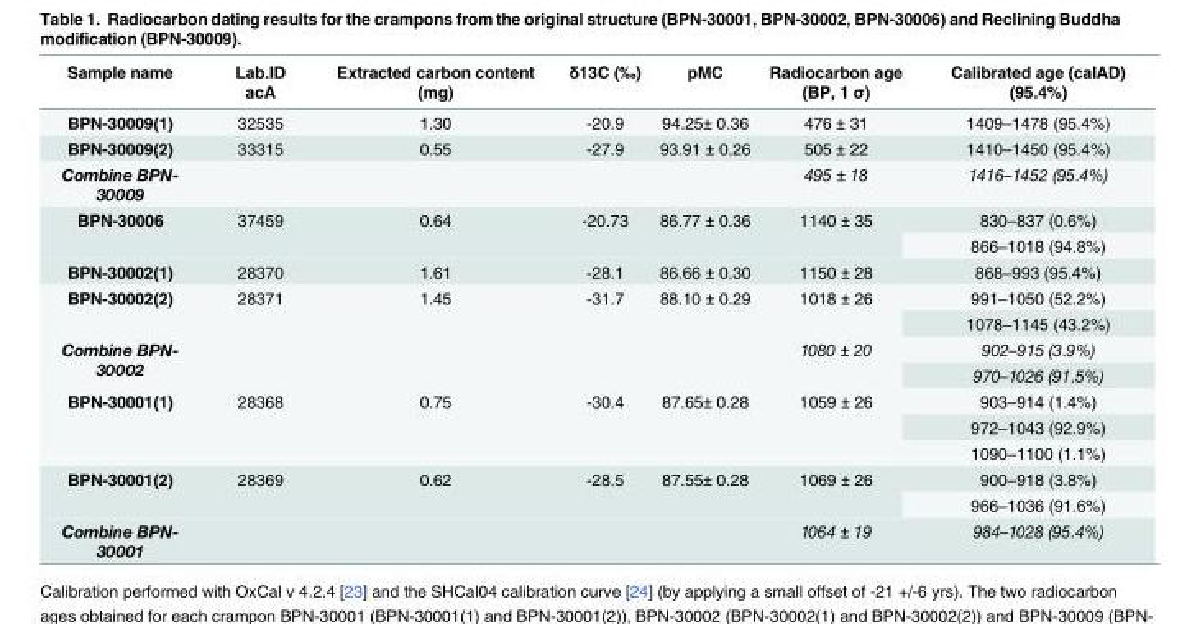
<table><thead><tr><td>Sample name</td><td>Lab.ID acA</td><td>Extracted carbon content (mg)</td><td>δ13C (‰)</td><td>pMC</td><td>Radiocarbon age (BP, 1 σ)</td><td>Calibrated age (calAD) (95.4%)</td></tr></thead><tbody><tr><td>BPN-30009(1)</td><td>32535</td><td>1.30</td><td>-20.9</td><td>94.25± 0.36</td><td>476 ± 31</td><td>1409–1478 (95.4%)</td></tr><tr><td>BPN-30009(2)</td><td>33315</td><td>0.55</td><td>-27.9</td><td>93.91 ± 0.26</td><td>505 ± 22</td><td>1410–1450 (95.4%)</td></tr><tr><td>Combine BPN- 30009</td><td></td><td></td><td></td><td></td><td>495 ± 18</td><td>1416–1452 (95.4%)</td></tr><tr><td rowspan="2">BPN-30006</td><td rowspan="2">37459</td><td rowspan="2">0.64</td><td rowspan="2">-20.73</td><td rowspan="2">86.77 ± 0.36</td><td rowspan="2">1140 ± 35</td><td>830–837 (0.6%)</td></tr><tr><td>866–1018 (94.8%)</td></tr><tr><td>BPN-30002(1)</td><td>28370</td><td>1.61</td><td>-28.1</td><td>86.66 ± 0.30</td><td>1150 ± 28</td><td>868–993 (95.4%)</td></tr><tr><td rowspan="2">BPN-30002(2)</td><td rowspan="2">28371</td><td rowspan="2">1.45</td><td rowspan="2">-31.7</td><td rowspan="2">88.10 ± 0.29</td><td rowspan="2">1018 ± 26</td><td>991–1050 (52.2%)</td></tr><tr><td>1078–1145 (43.2%)</td></tr><tr><td rowspan="2">Combine BPN- 30002</td><td rowspan="2"></td><td rowspan="2"></td><td rowspan="2"></td><td rowspan="2"></td><td rowspan="2">1080 ± 20</td><td>902–915 (3.9%)</td></tr><tr><td>970–1026 (91.5%)</td></tr><tr><td rowspan="3">BPN-30001(1)</td><td rowspan="3">28368</td><td rowspan="3">0.75</td><td rowspan="3">-30.4</td><td rowspan="3">87.65± 0.28</td><td rowspan="3">1059 ± 26</td><td>903–914 (1.4%)</td></tr><tr><td>972–1043 (92.9%)</td></tr><tr><td>1090–1100 (1.1%)</td></tr><tr><td rowspan="2">BPN-30001(2)</td><td rowspan="2">28369</td><td rowspan="2">0.62</td><td rowspan="2">-28.5</td><td rowspan="2">87.55± 0.28</td><td rowspan="2">1069 ± 26</td><td>900–918 (3.8%)</td></tr><tr><td>966–1036 (91.6%)</td></tr><tr><td>Combine BPN- 30001</td><td></td><td></td><td></td><td></td><td>1064 ± 19</td><td>984–1028 (95.4%)</td></tr></tbody></table>